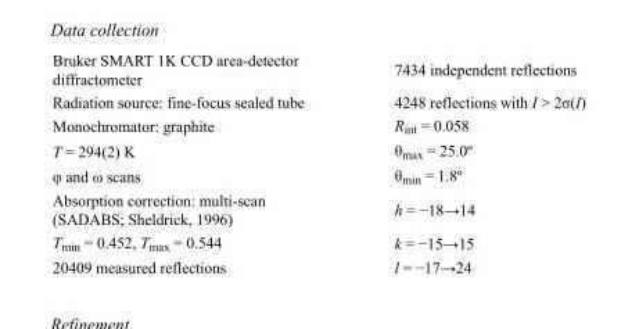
<table><tbody><tr><td>Bruker SMART 1K CCD area-detector diffractometer</td><td>7434 independent reflections</td></tr><tr><td>Radiation source: fine-focus sealed tube</td><td>4248 reflections with I &gt; 2σ(I)</td></tr><tr><td>Monochromator: graphite</td><td>R<sub>int</sub> = 0.058</td></tr><tr><td>T = 294(2) K</td><td>θ<sub>max</sub> = 25.0º</td></tr><tr><td>φ and ω scans</td><td>θ<sub>min</sub> = 1.8º</td></tr><tr><td>Absorption correction: multi-scan (SADABS; Sheldrick, 1996)</td><td>h = −18→14</td></tr><tr><td>T<sub>min</sub> = 0.452, T<sub>max</sub> = 0.544</td><td>k = −15→15</td></tr><tr><td>20409 measured reflections</td><td>l = −17→24</td></tr></tbody></table>